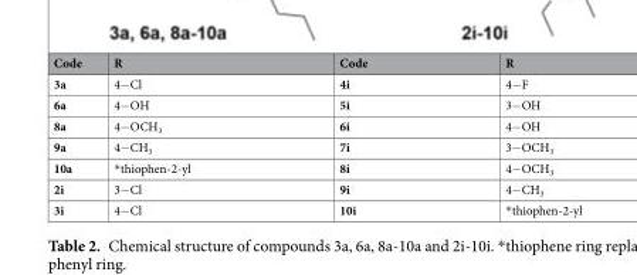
<table><tbody><tr><td>Code</td><td>R</td><td>Code</td><td>R</td></tr><tr><td>3a</td><td>4−Cl</td><td>4i</td><td>4−F</td></tr><tr><td>6a</td><td>4−OH</td><td>5i</td><td>3−OH</td></tr><tr><td>8a</td><td>4−OCH<sub>3</sub></td><td>6i</td><td>4−OH</td></tr><tr><td>9a</td><td>4−CH<sub>3</sub></td><td>7i</td><td>3−OCH<sub>3</sub></td></tr><tr><td>10a</td><td>*thiophen-2-yl</td><td>8i</td><td>4−OCH<sub>3</sub></td></tr><tr><td>2i</td><td>3−Cl</td><td>9i</td><td>4−CH<sub>3</sub></td></tr><tr><td>3i</td><td>4−Cl</td><td>10i</td><td>*thiophen-2-yl</td></tr></tbody></table>